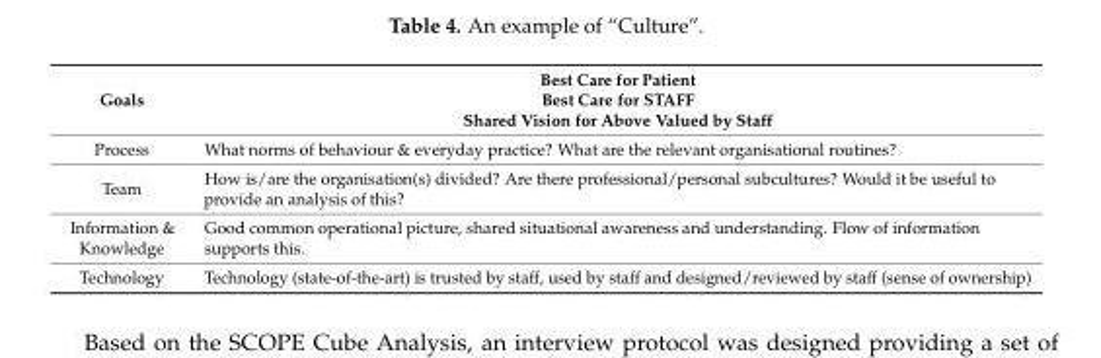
<table><thead><tr><td>Goals</td><td>Best Care for Patient Best Care for STAFF Shared Vision for Above Valued by Staff</td></tr></thead><tbody><tr><td>Process</td><td>What norms of behaviour &amp; everyday practice? What are the relevant organisational routines?</td></tr><tr><td>Team</td><td>How is/are the organisation(s) divided? Are there professional/personal subcultures? Would it be useful to provide an analysis of this?</td></tr><tr><td>Information &amp; Knowledge</td><td>Good common operational picture, shared situational awareness and understanding. Flow of information supports this.</td></tr><tr><td>Technology</td><td>Technology (state-of-the-art) is trusted by staff, used by staff and designed/reviewed by staff (sense of ownership)</td></tr></tbody></table>